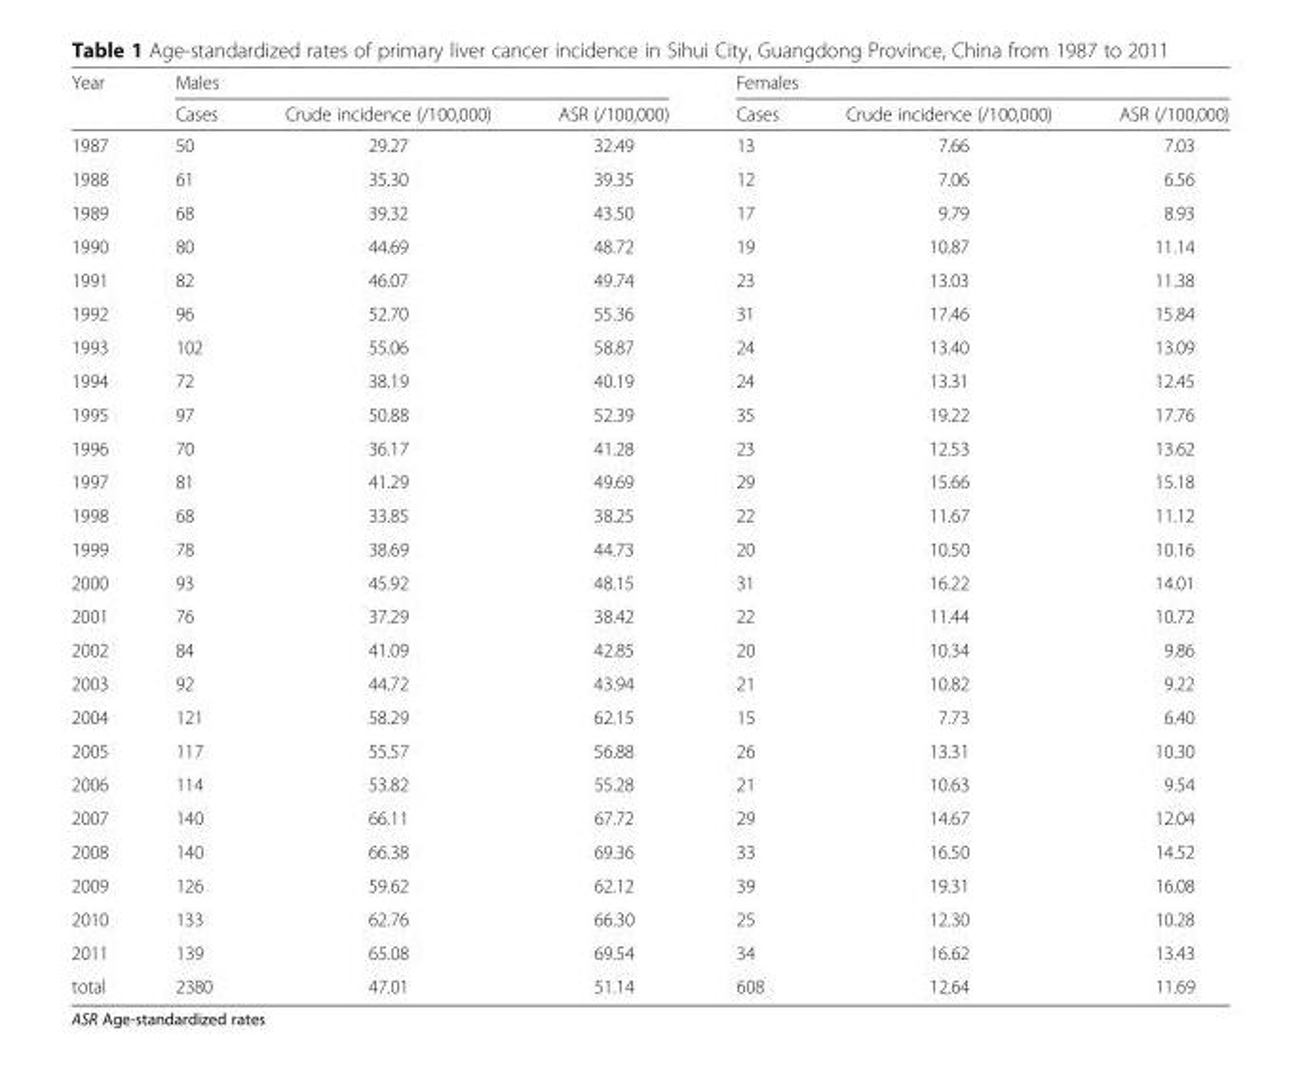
<table><thead><tr><td rowspan="2">Year</td><td colspan="3">Males</td><td colspan="3">Females</td></tr><tr><td>Cases</td><td>Crude incidence (/100,000)</td><td>ASR (/100,000)</td><td>Cases</td><td>Crude incidence (/100,000)</td><td>ASR (/100,000)</td></tr></thead><tbody><tr><td>1987</td><td>50</td><td>29.27</td><td>32.49</td><td>13</td><td>7.66</td><td>7.03</td></tr><tr><td>1988</td><td>61</td><td>35.30</td><td>39.35</td><td>12</td><td>7.06</td><td>6.56</td></tr><tr><td>1989</td><td>68</td><td>39.32</td><td>43.50</td><td>17</td><td>9.79</td><td>8.93</td></tr><tr><td>1990</td><td>80</td><td>44.69</td><td>48.72</td><td>19</td><td>10.87</td><td>11.14</td></tr><tr><td>1991</td><td>82</td><td>46.07</td><td>49.74</td><td>23</td><td>13.03</td><td>11.38</td></tr><tr><td>1992</td><td>96</td><td>52.70</td><td>55.36</td><td>31</td><td>17.46</td><td>15.84</td></tr><tr><td>1993</td><td>102</td><td>55.06</td><td>58.87</td><td>24</td><td>13.40</td><td>13.09</td></tr><tr><td>1994</td><td>72</td><td>38.19</td><td>40.19</td><td>24</td><td>13.31</td><td>12.45</td></tr><tr><td>1995</td><td>97</td><td>50.88</td><td>52.39</td><td>35</td><td>19.22</td><td>17.76</td></tr><tr><td>1996</td><td>70</td><td>36.17</td><td>41.28</td><td>23</td><td>12.53</td><td>13.62</td></tr><tr><td>1997</td><td>81</td><td>41.29</td><td>49.69</td><td>29</td><td>15.66</td><td>15.18</td></tr><tr><td>1998</td><td>68</td><td>33.85</td><td>38.25</td><td>22</td><td>11.67</td><td>11.12</td></tr><tr><td>1999</td><td>78</td><td>38.69</td><td>44.73</td><td>20</td><td>10.50</td><td>10.16</td></tr><tr><td>2000</td><td>93</td><td>45.92</td><td>48.15</td><td>31</td><td>16.22</td><td>14.01</td></tr><tr><td>2001</td><td>76</td><td>37.29</td><td>38.42</td><td>22</td><td>11.44</td><td>10.72</td></tr><tr><td>2002</td><td>84</td><td>41.09</td><td>42.85</td><td>20</td><td>10.34</td><td>9.86</td></tr><tr><td>2003</td><td>92</td><td>44.72</td><td>43.94</td><td>21</td><td>10.82</td><td>9.22</td></tr><tr><td>2004</td><td>121</td><td>58.29</td><td>62.15</td><td>15</td><td>7.73</td><td>6.40</td></tr><tr><td>2005</td><td>117</td><td>55.57</td><td>56.88</td><td>26</td><td>13.31</td><td>10.30</td></tr><tr><td>2006</td><td>114</td><td>53.82</td><td>55.28</td><td>21</td><td>10.63</td><td>9.54</td></tr><tr><td>2007</td><td>140</td><td>66.11</td><td>67.72</td><td>29</td><td>14.67</td><td>12.04</td></tr><tr><td>2008</td><td>140</td><td>66.38</td><td>69.36</td><td>33</td><td>16.50</td><td>14.52</td></tr><tr><td>2009</td><td>126</td><td>59.62</td><td>62.12</td><td>39</td><td>19.31</td><td>16.08</td></tr><tr><td>2010</td><td>133</td><td>62.76</td><td>66.30</td><td>25</td><td>12.30</td><td>10.28</td></tr><tr><td>2011</td><td>139</td><td>65.08</td><td>69.54</td><td>34</td><td>16.62</td><td>13.43</td></tr><tr><td>total</td><td>2380</td><td>47.01</td><td>51.14</td><td>608</td><td>12.64</td><td>11.69</td></tr></tbody></table>